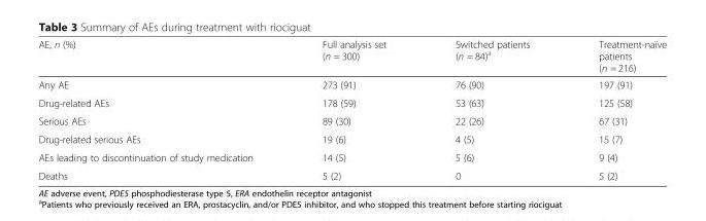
<table><thead><tr><td>AE, n (%)</td><td>Full analysis set (n = 300)</td><td>Switched patients (n = 84)<sup>a</sup></td><td>Treatment-naïve patients (n = 216)</td></tr></thead><tbody><tr><td>Any AE</td><td>273 (91)</td><td>76 (90)</td><td>197 (91)</td></tr><tr><td>Drug-related AEs</td><td>178 (59)</td><td>53 (63)</td><td>125 (58)</td></tr><tr><td>Serious AEs</td><td>89 (30)</td><td>22 (26)</td><td>67 (31)</td></tr><tr><td>Drug-related serious AEs</td><td>19 (6)</td><td>4 (5)</td><td>15 (7)</td></tr><tr><td>AEs leading to discontinuation of study medication</td><td>14 (5)</td><td>5 (6)</td><td>9 (4)</td></tr><tr><td>Deaths</td><td>5 (2)</td><td>0</td><td>5 (2)</td></tr></tbody></table>